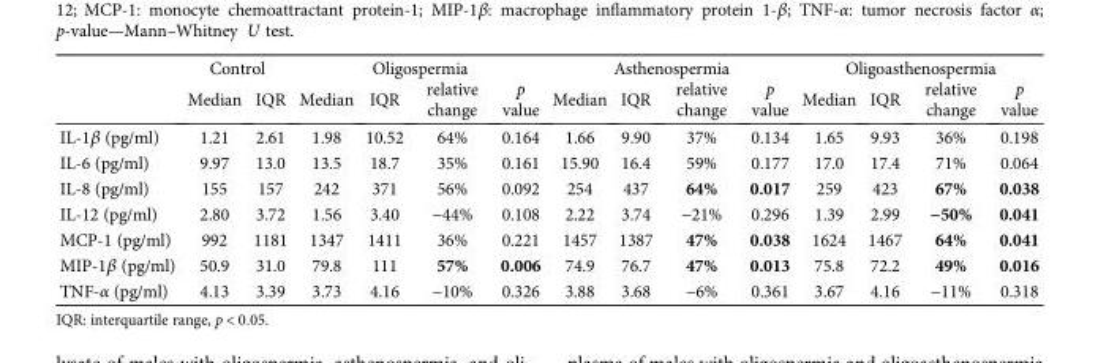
<table><thead><tr><td rowspan="2"></td><td colspan="2">Control</td><td colspan="4">Oligospermia</td><td colspan="4">Asthenospermia</td><td colspan="4">Oligoasthenospermia</td></tr><tr><td>Median</td><td>IQR</td><td>Median</td><td>IQR</td><td>relative change</td><td>p value</td><td>Median</td><td>IQR</td><td>relative change</td><td>p value</td><td>Median</td><td>IQR</td><td>relative change</td><td>p value</td></tr></thead><tbody><tr><td>IL-1β (pg/ml)</td><td>1.21</td><td>2.61</td><td>1.98</td><td>10.52</td><td>64%</td><td>0.164</td><td>1.66</td><td>9.90</td><td>37%</td><td>0.134</td><td>1.65</td><td>9.93</td><td>36%</td><td>0.198</td></tr><tr><td>IL-6 (pg/ml)</td><td>9.97</td><td>13.0</td><td>13.5</td><td>18.7</td><td>35%</td><td>0.161</td><td>15.90</td><td>16.4</td><td>59%</td><td>0.177</td><td>17.0</td><td>17.4</td><td>71%</td><td>0.064</td></tr><tr><td>IL-8 (pg/ml)</td><td>155</td><td>157</td><td>242</td><td>371</td><td>56%</td><td>0.092</td><td>254</td><td>437</td><td>64%</td><td>0.017</td><td>259</td><td>423</td><td>67%</td><td>0.038</td></tr><tr><td>IL-12 (pg/ml)</td><td>2.80</td><td>3.72</td><td>1.56</td><td>3.40</td><td>−44%</td><td>0.108</td><td>2.22</td><td>3.74</td><td>−21%</td><td>0.296</td><td>1.39</td><td>2.99</td><td>−50%</td><td>0.041</td></tr><tr><td>MCP-1 (pg/ml)</td><td>992</td><td>1181</td><td>1347</td><td>1411</td><td>36%</td><td>0.221</td><td>1457</td><td>1387</td><td>47%</td><td>0.038</td><td>1624</td><td>1467</td><td>64%</td><td>0.041</td></tr><tr><td>MIP-1β (pg/ml)</td><td>50.9</td><td>31.0</td><td>79.8</td><td>111</td><td>57%</td><td>0.006</td><td>74.9</td><td>76.7</td><td>47%</td><td>0.013</td><td>75.8</td><td>72.2</td><td>49%</td><td>0.016</td></tr><tr><td>TNF-α (pg/ml)</td><td>4.13</td><td>3.39</td><td>3.73</td><td>4.16</td><td>−10%</td><td>0.326</td><td>3.88</td><td>3.68</td><td>−6%</td><td>0.361</td><td>3.67</td><td>4.16</td><td>−11%</td><td>0.318</td></tr></tbody></table>